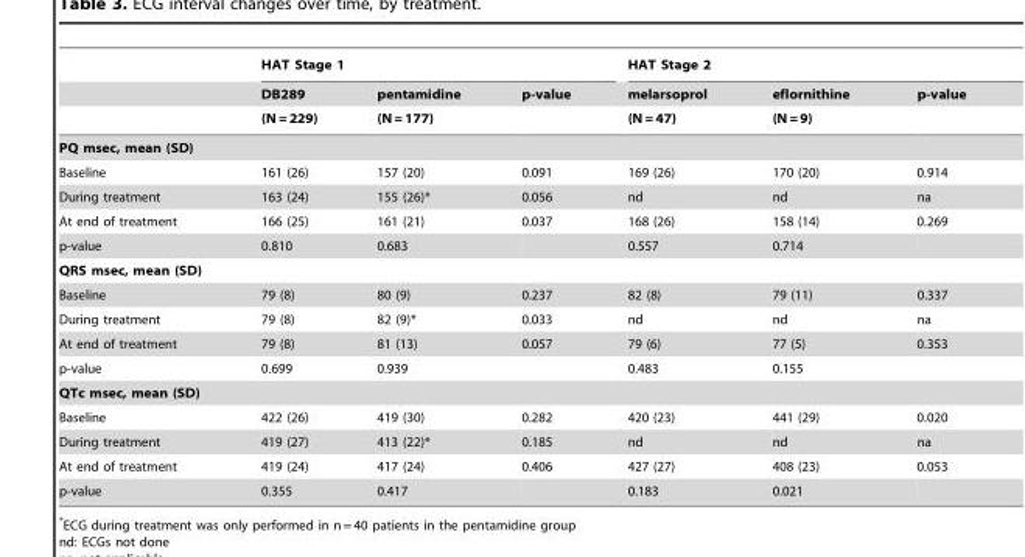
<table><thead><tr><td rowspan="3"></td><td colspan="3">HAT Stage 1</td><td colspan="3">HAT Stage 2</td></tr><tr><td rowspan="2">DB289 (N = 229)</td><td rowspan="2">pentamidine (N = 177)</td><td rowspan="2">p-value</td><td rowspan="2">melarsoprol (N = 47)</td><td rowspan="2">eflornithine (N = 9)</td><td rowspan="2">p-value</td></tr><tr></tr></thead><tbody><tr><td colspan="7">PQ msec, mean (SD)</td></tr><tr><td>Baseline</td><td>161 (26)</td><td>157 (20)</td><td>0.091</td><td>169 (26)</td><td>170 (20)</td><td>0.914</td></tr><tr><td>During treatment</td><td>163 (24)</td><td>155 (26)*</td><td>0.056</td><td>nd</td><td>nd</td><td>na</td></tr><tr><td>At end of treatment</td><td>166 (25)</td><td>161 (21)</td><td>0.037</td><td>168 (26)</td><td>158 (14)</td><td>0.269</td></tr><tr><td>p-value</td><td>0.810</td><td>0.683</td><td></td><td>0.557</td><td>0.714</td><td></td></tr><tr><td colspan="7">QRS msec, mean (SD)</td></tr><tr><td>Baseline</td><td>79 (8)</td><td>80 (9)</td><td>0.237</td><td>82 (8)</td><td>79 (11)</td><td>0.337</td></tr><tr><td>During treatment</td><td>79 (8)</td><td>82 (9)*</td><td>0.033</td><td>nd</td><td>nd</td><td>na</td></tr><tr><td>At end of treatment</td><td>79 (8)</td><td>81 (13)</td><td>0.057</td><td>79 (6)</td><td>77 (5)</td><td>0.353</td></tr><tr><td>p-value</td><td>0.699</td><td>0.939</td><td></td><td>0.483</td><td>0.155</td><td></td></tr><tr><td colspan="7">QTc msec, mean (SD)</td></tr><tr><td>Baseline</td><td>422 (26)</td><td>419 (30)</td><td>0.282</td><td>420 (23)</td><td>441 (29)</td><td>0.020</td></tr><tr><td>During treatment</td><td>419 (27)</td><td>413 (22)*</td><td>0.185</td><td>nd</td><td>nd</td><td>na</td></tr><tr><td>At end of treatment</td><td>419 (24)</td><td>417 (24)</td><td>0.406</td><td>427 (27)</td><td>408 (23)</td><td>0.053</td></tr><tr><td>p-value</td><td>0.355</td><td>0.417</td><td></td><td>0.183</td><td>0.021</td><td></td></tr></tbody></table>